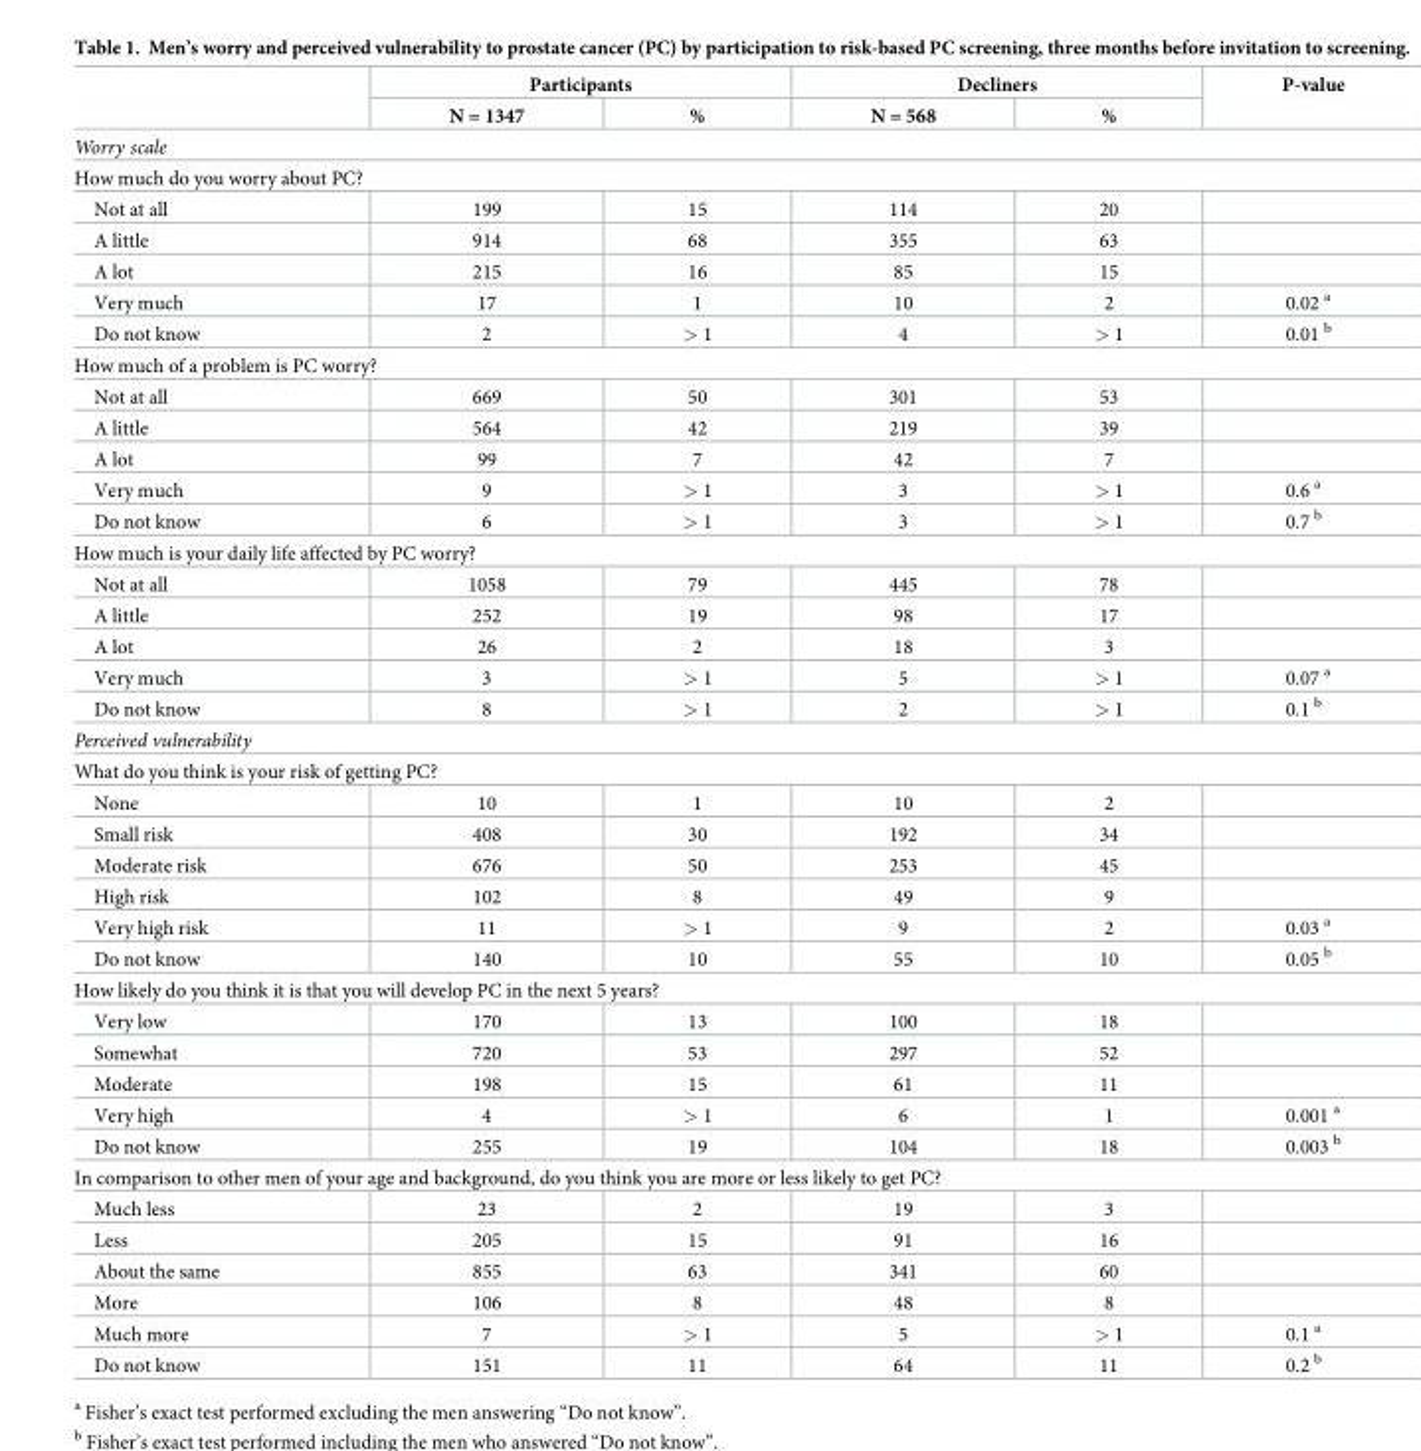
<table><thead><tr><td rowspan="2"></td><td colspan="2">Participants</td><td colspan="2">Decliners</td><td rowspan="2">P-value</td></tr><tr><td>N = 1347</td><td>%</td><td>N = 568</td><td>%</td></tr></thead><tbody><tr><td colspan="6">Worry scale</td></tr><tr><td colspan="6">How much do you worry about PC?</td></tr><tr><td>Not at all</td><td>199</td><td>15</td><td>114</td><td>20</td><td></td></tr><tr><td>A little</td><td>914</td><td>68</td><td>355</td><td>63</td><td></td></tr><tr><td>A lot</td><td>215</td><td>16</td><td>85</td><td>15</td><td></td></tr><tr><td>Very much</td><td>17</td><td>1</td><td>10</td><td>2</td><td>0.02 <sup>a</sup></td></tr><tr><td>Do not know</td><td>2</td><td>&gt; 1</td><td>4</td><td>&gt; 1</td><td>0.01 <sup>b</sup></td></tr><tr><td colspan="6">How much of a problem is PC worry?</td></tr><tr><td>Not at all</td><td>669</td><td>50</td><td>301</td><td>53</td><td></td></tr><tr><td>A little</td><td>564</td><td>42</td><td>219</td><td>39</td><td></td></tr><tr><td>A lot</td><td>99</td><td>7</td><td>42</td><td>7</td><td></td></tr><tr><td>Very much</td><td>9</td><td>&gt; 1</td><td>3</td><td>&gt; 1</td><td>0.6 <sup>a</sup></td></tr><tr><td>Do not know</td><td>6</td><td>&gt; 1</td><td>3</td><td>&gt; 1</td><td>0.7 <sup>b</sup></td></tr><tr><td colspan="6">How much is your daily life affected by PC worry?</td></tr><tr><td>Not at all</td><td>1058</td><td>79</td><td>445</td><td>78</td><td></td></tr><tr><td>A little</td><td>252</td><td>19</td><td>98</td><td>17</td><td></td></tr><tr><td>A lot</td><td>26</td><td>2</td><td>18</td><td>3</td><td></td></tr><tr><td>Very much</td><td>3</td><td>&gt; 1</td><td>5</td><td>&gt; 1</td><td>0.07 <sup>a</sup></td></tr><tr><td>Do not know</td><td>8</td><td>&gt; 1</td><td>2</td><td>&gt; 1</td><td>0.1 <sup>b</sup></td></tr><tr><td colspan="6">Perceived vulnerability</td></tr><tr><td colspan="6">What do you think is your risk of getting PC?</td></tr><tr><td>None</td><td>10</td><td>1</td><td>10</td><td>2</td><td></td></tr><tr><td>Small risk</td><td>408</td><td>30</td><td>192</td><td>34</td><td></td></tr><tr><td>Moderate risk</td><td>676</td><td>50</td><td>253</td><td>45</td><td></td></tr><tr><td>High risk</td><td>102</td><td>8</td><td>49</td><td>9</td><td></td></tr><tr><td>Very high risk</td><td>11</td><td>&gt; 1</td><td>9</td><td>2</td><td>0.03 <sup>a</sup></td></tr><tr><td>Do not know</td><td>140</td><td>10</td><td>55</td><td>10</td><td>0.05 <sup>b</sup></td></tr><tr><td colspan="6">How likely do you think it is that you will develop PC in the next 5 years?</td></tr><tr><td>Very low</td><td>170</td><td>13</td><td>100</td><td>18</td><td></td></tr><tr><td>Somewhat</td><td>720</td><td>53</td><td>297</td><td>52</td><td></td></tr><tr><td>Moderate</td><td>198</td><td>15</td><td>61</td><td>11</td><td></td></tr><tr><td>Very high</td><td>4</td><td>&gt; 1</td><td>6</td><td>1</td><td>0.001 <sup>a</sup></td></tr><tr><td>Do not know</td><td>255</td><td>19</td><td>104</td><td>18</td><td>0.003 <sup>b</sup></td></tr><tr><td colspan="6">In comparison to other men of your age and background, do you think you are more or less likely to get PC?</td></tr><tr><td>Much less</td><td>23</td><td>2</td><td>19</td><td>3</td><td></td></tr><tr><td>Less</td><td>205</td><td>15</td><td>91</td><td>16</td><td></td></tr><tr><td>About the same</td><td>855</td><td>63</td><td>341</td><td>60</td><td></td></tr><tr><td>More</td><td>106</td><td>8</td><td>48</td><td>8</td><td></td></tr><tr><td>Much more</td><td>7</td><td>&gt; 1</td><td>5</td><td>&gt; 1</td><td>0.1 <sup>a</sup></td></tr><tr><td>Do not know</td><td>151</td><td>11</td><td>64</td><td>11</td><td>0.2 <sup>b</sup></td></tr></tbody></table>